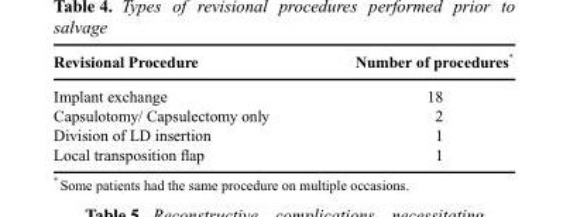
<table><thead><tr><td>Revisional Procedure</td><td>Number of procedures</td></tr></thead><tbody><tr><td>Implant exchange</td><td>18</td></tr><tr><td>Capsulotomy/ Capsulectomy only</td><td>2</td></tr><tr><td>Division of LD insertion</td><td>1</td></tr><tr><td>Local transposition flap</td><td>1</td></tr></tbody></table>